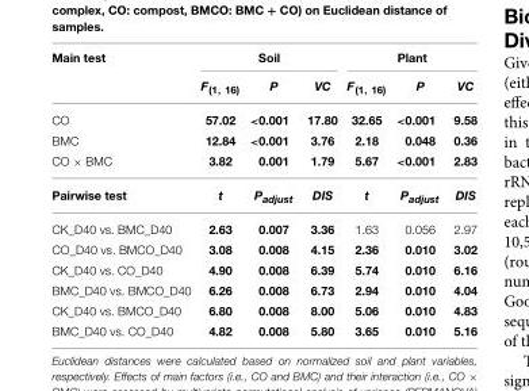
<table><thead><tr><td rowspan="2">Main test</td><td colspan="3">Soil</td><td colspan="3">Plant</td></tr><tr><td>F<sub>(1, 16)</sub></td><td>P</td><td>VC</td><td>F<sub>(1, 16)</sub></td><td>P</td><td>VC</td></tr></thead><tbody><tr><td>CO</td><td>57.02</td><td>&lt;0.001</td><td>17.80</td><td>32.65</td><td>&lt;0.001</td><td>9.58</td></tr><tr><td>BMC</td><td>12.84</td><td>&lt;0.001</td><td>3.76</td><td>2.18</td><td>0.048</td><td>0.36</td></tr><tr><td>CO × BMC</td><td>3.82</td><td>0.001</td><td>1.79</td><td>5.67</td><td>&lt;0.001</td><td>2.83</td></tr><tr><td>Pairwise test</td><td>t</td><td>Padjust</td><td>DIS</td><td>t</td><td>Padjust</td><td>DIS</td></tr><tr><td>CK_D40 vs. BMC_D40</td><td>2.63</td><td>0.007</td><td>3.36</td><td>1.63</td><td>0.056</td><td>2.97</td></tr><tr><td>CO_D40 vs. BMCO_D40</td><td>3.08</td><td>0.008</td><td>4.15</td><td>2.36</td><td>0.010</td><td>3.02</td></tr><tr><td>CK_D40 vs. CO_D40</td><td>4.90</td><td>0.008</td><td>6.39</td><td>5.74</td><td>0.010</td><td>6.16</td></tr><tr><td>BMC_D40 vs. BMCO_D40</td><td>6.26</td><td>0.008</td><td>6.73</td><td>2.94</td><td>0.010</td><td>4.04</td></tr><tr><td>CK_D40 vs. BMCO_D40</td><td>6.80</td><td>0.008</td><td>8.00</td><td>5.06</td><td>0.010</td><td>4.83</td></tr><tr><td>BMC_D40 vs. CO_D40</td><td>4.82</td><td>0.008</td><td>5.80</td><td>3.65</td><td>0.010</td><td>5.16</td></tr></tbody></table>